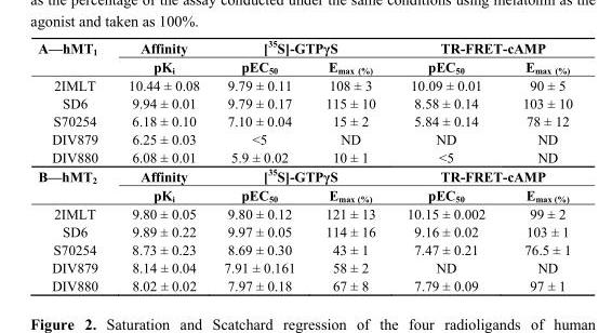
<table><thead><tr><td rowspan="2">A—hMT1</td><td rowspan="2">Affinity pKi</td><td colspan="2">[35S]-GTPγS</td><td colspan="2">TR-FRET-cAMP</td></tr><tr><td>pEC50</td><td>Emax (%)</td><td>pEC50</td><td>Emax (%)</td></tr></thead><tbody><tr><td>2IMLT</td><td>10.44 ± 0.08</td><td>9.79 ± 0.11</td><td>108 ± 3</td><td>10.09 ± 0.01</td><td>90 ± 5</td></tr><tr><td>SD6</td><td>9.94 ± 0.01</td><td>9.79 ± 0.17</td><td>115 ± 10</td><td>8.58 ± 0.14</td><td>103 ± 10</td></tr><tr><td>S70254</td><td>6.18 ± 0.10</td><td>7.10 ± 0.04</td><td>15 ± 2</td><td>5.84 ± 0.14</td><td>78 ± 12</td></tr><tr><td>DIV879</td><td>6.25 ± 0.03</td><td>&lt;5</td><td>ND</td><td>ND</td><td>ND</td></tr><tr><td>DIV880</td><td>6.08 ± 0.01</td><td>5.9 ± 0.02</td><td>10 ± 1</td><td>&lt;5</td><td>ND</td></tr><tr><td rowspan="2">B—hMT2</td><td>Affinity</td><td colspan="2">[35S]-GTPγS</td><td colspan="2">TR-FRET-cAMP</td></tr><tr><td>pKi</td><td>pEC50</td><td>Emax (%)</td><td>pEC50</td><td>Emax (%)</td></tr><tr><td>2IMLT</td><td>9.80 ± 0.05</td><td>9.80 ± 0.12</td><td>121 ± 13</td><td>10.15 ± 0.002</td><td>99 ± 2</td></tr><tr><td>SD6</td><td>9.89 ± 0.22</td><td>9.97 ± 0.05</td><td>114 ± 16</td><td>9.16 ± 0.02</td><td>103 ± 1</td></tr><tr><td>S70254</td><td>8.73 ± 0.23</td><td>8.69 ± 0.30</td><td>43 ± 1</td><td>7.47 ± 0.21</td><td>76.5 ± 1</td></tr><tr><td>DIV879</td><td>8.14 ± 0.04</td><td>7.91 ± 0.161</td><td>58 ± 2</td><td>ND</td><td>ND</td></tr><tr><td>DIV880</td><td>8.02 ± 0.02</td><td>7.97 ± 0.18</td><td>67 ± 8</td><td>7.79 ± 0.09</td><td>97 ± 1</td></tr></tbody></table>